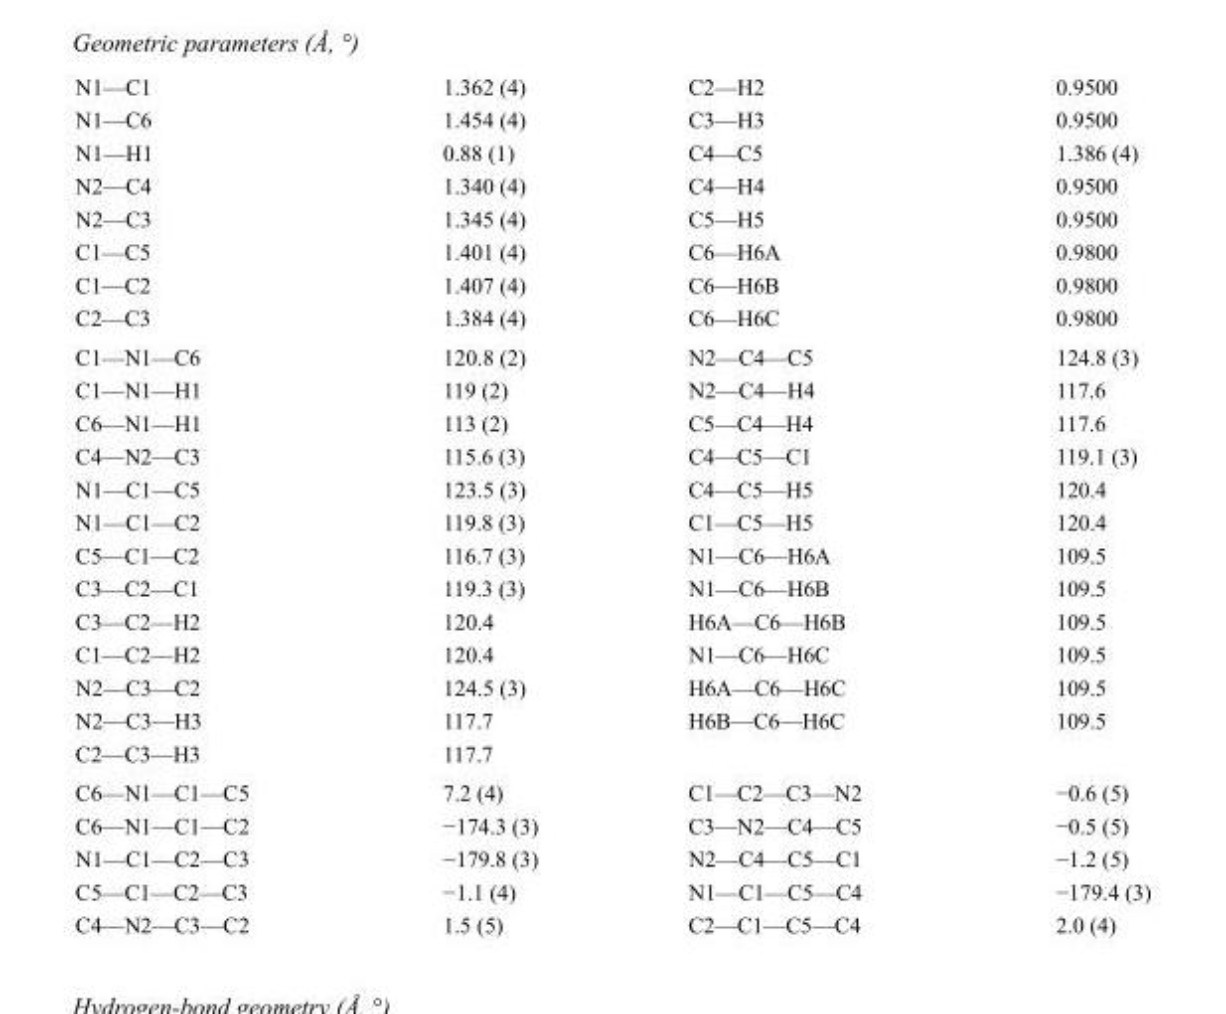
<table><tbody><tr><td>N1—C1</td><td>1.362 (4)</td><td>C2—H2</td><td>0.9500</td></tr><tr><td>N1—C6</td><td>1.454 (4)</td><td>C3—H3</td><td>0.9500</td></tr><tr><td>N1—H1</td><td>0.88 (1)</td><td>C4—C5</td><td>1.386 (4)</td></tr><tr><td>N2—C4</td><td>1.340 (4)</td><td>C4—H4</td><td>0.9500</td></tr><tr><td>N2—C3</td><td>1.345 (4)</td><td>C5—H5</td><td>0.9500</td></tr><tr><td>C1—C5</td><td>1.401 (4)</td><td>C6—H6A</td><td>0.9800</td></tr><tr><td>C1—C2</td><td>1.407 (4)</td><td>C6—H6B</td><td>0.9800</td></tr><tr><td>C2—C3</td><td>1.384 (4)</td><td>C6—H6C</td><td>0.9800</td></tr><tr><td>C1—N1—C6</td><td>120.8 (2)</td><td>N2—C4—C5</td><td>124.8 (3)</td></tr><tr><td>C1—N1—H1</td><td>119 (2)</td><td>N2—C4—H4</td><td>117.6</td></tr><tr><td>C6—N1—H1</td><td>113 (2)</td><td>C5—C4—H4</td><td>117.6</td></tr><tr><td>C4—N2—C3</td><td>115.6 (3)</td><td>C4—C5—C1</td><td>119.1 (3)</td></tr><tr><td>N1—C1—C5</td><td>123.5 (3)</td><td>C4—C5—H5</td><td>120.4</td></tr><tr><td>N1—C1—C2</td><td>119.8 (3)</td><td>C1—C5—H5</td><td>120.4</td></tr><tr><td>C5—C1—C2</td><td>116.7 (3)</td><td>N1—C6—H6A</td><td>109.5</td></tr><tr><td>C3—C2—C1</td><td>119.3 (3)</td><td>N1—C6—H6B</td><td>109.5</td></tr><tr><td>C3—C2—H2</td><td>120.4</td><td>H6A—C6—H6B</td><td>109.5</td></tr><tr><td>C1—C2—H2</td><td>120.4</td><td>N1—C6—H6C</td><td>109.5</td></tr><tr><td>N2—C3—C2</td><td>124.5 (3)</td><td>H6A—C6—H6C</td><td>109.5</td></tr><tr><td>N2—C3—H3</td><td>117.7</td><td>H6B—C6—H6C</td><td>109.5</td></tr><tr><td>C2—C3—H3</td><td>117.7</td><td></td><td></td></tr><tr><td>C6—N1—C1—C5</td><td>7.2 (4)</td><td>C1—C2—C3—N2</td><td>−0.6 (5)</td></tr><tr><td>C6—N1—C1—C2</td><td>−174.3 (3)</td><td>C3—N2—C4—C5</td><td>−0.5 (5)</td></tr><tr><td>N1—C1—C2—C3</td><td>−179.8 (3)</td><td>N2—C4—C5—C1</td><td>−1.2 (5)</td></tr><tr><td>C5—C1—C2—C3</td><td>−1.1 (4)</td><td>N1—C1—C5—C4</td><td>−179.4 (3)</td></tr><tr><td>C4—N2—C3—C2</td><td>1.5 (5)</td><td>C2—C1—C5—C4</td><td>2.0 (4)</td></tr></tbody></table>